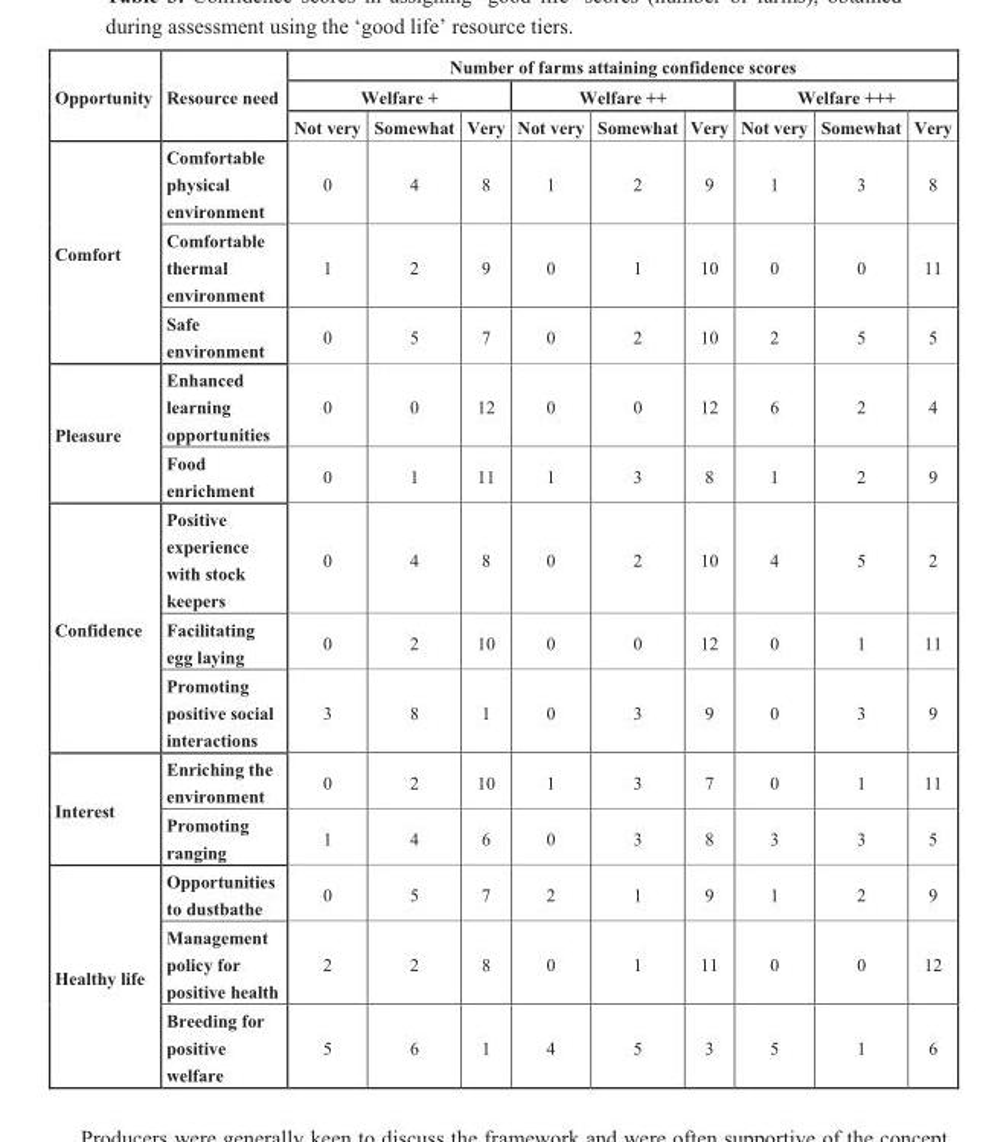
<table><thead><tr><td rowspan="3">Opportunity</td><td rowspan="3">Resource need</td><td colspan="9">Number of farms attaining confidence scores</td></tr><tr><td colspan="3">Welfare +</td><td colspan="3">Welfare ++</td><td colspan="3">Welfare +++</td></tr><tr><td>Not very</td><td>Somewhat</td><td>Very</td><td>Not very</td><td>Somewhat</td><td>Very</td><td>Not very</td><td>Somewhat</td><td>Very</td></tr></thead><tbody><tr><td rowspan="3">Comfort</td><td>Comfortable physical environment</td><td>0</td><td>4</td><td>8</td><td>1</td><td>2</td><td>9</td><td>1</td><td>3</td><td>8</td></tr><tr><td>Comfortable thermal environment</td><td>1</td><td>2</td><td>9</td><td>0</td><td>1</td><td>10</td><td>0</td><td>0</td><td>11</td></tr><tr><td>Safe environment</td><td>0</td><td>5</td><td>7</td><td>0</td><td>2</td><td>10</td><td>2</td><td>5</td><td>5</td></tr><tr><td rowspan="2">Pleasure</td><td>Enhanced learning opportunities</td><td>0</td><td>0</td><td>12</td><td>0</td><td>0</td><td>12</td><td>6</td><td>2</td><td>4</td></tr><tr><td>Food enrichment</td><td>0</td><td>1</td><td>11</td><td>1</td><td>3</td><td>8</td><td>1</td><td>2</td><td>9</td></tr><tr><td rowspan="3">Confidence</td><td>Positive experience with stock keepers</td><td>0</td><td>4</td><td>8</td><td>0</td><td>2</td><td>10</td><td>4</td><td>5</td><td>2</td></tr><tr><td>Facilitating egg laying</td><td>0</td><td>2</td><td>10</td><td>0</td><td>0</td><td>12</td><td>0</td><td>1</td><td>11</td></tr><tr><td>Promoting positive social interactions</td><td>3</td><td>8</td><td>1</td><td>0</td><td>3</td><td>9</td><td>0</td><td>3</td><td>9</td></tr><tr><td rowspan="2">Interest</td><td>Enriching the environment</td><td>0</td><td>2</td><td>10</td><td>1</td><td>3</td><td>7</td><td>0</td><td>1</td><td>11</td></tr><tr><td>Promoting ranging</td><td>1</td><td>4</td><td>6</td><td>0</td><td>3</td><td>8</td><td>3</td><td>3</td><td>5</td></tr><tr><td rowspan="3">Healthy life</td><td>Opportunities to dustbathe</td><td>0</td><td>5</td><td>7</td><td>2</td><td>1</td><td>9</td><td>1</td><td>2</td><td>9</td></tr><tr><td>Management policy for positive health</td><td>2</td><td>2</td><td>8</td><td>0</td><td>1</td><td>11</td><td>0</td><td>0</td><td>12</td></tr><tr><td>Breeding for positive welfare</td><td>5</td><td>6</td><td>1</td><td>4</td><td>5</td><td>3</td><td>5</td><td>1</td><td>6</td></tr></tbody></table>